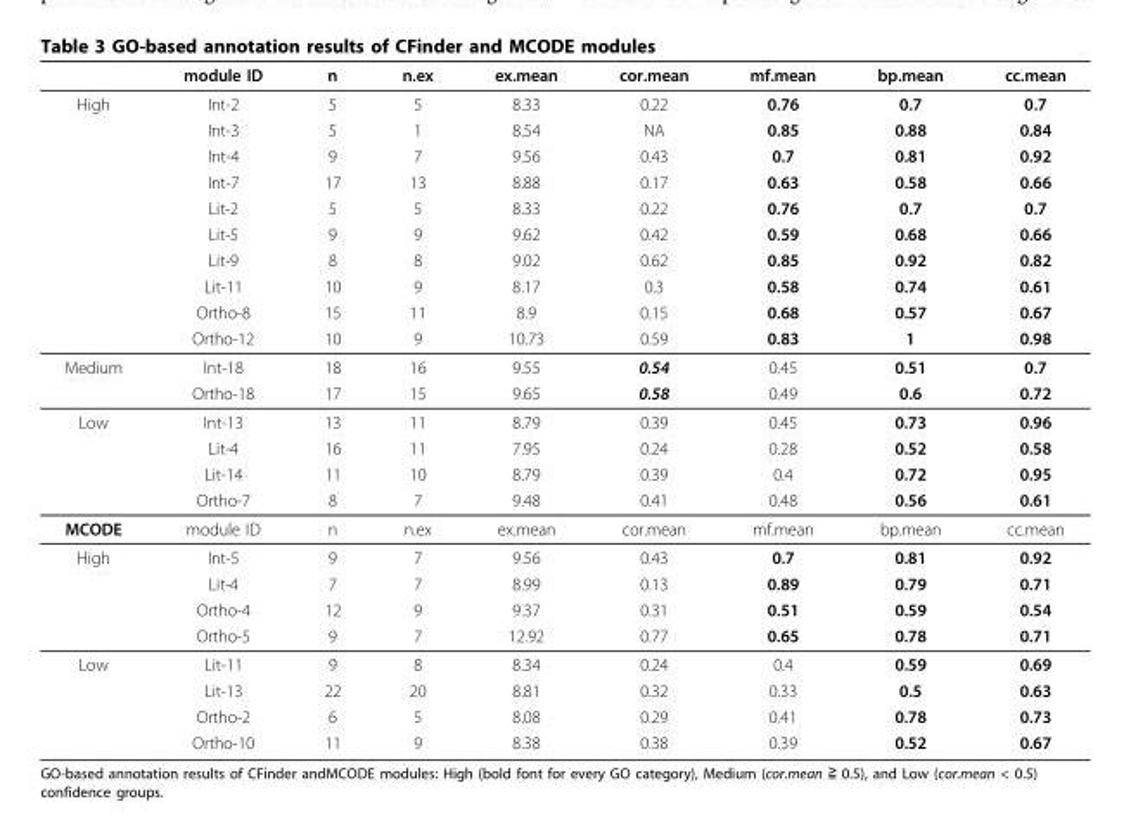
<table><thead><tr><td></td><td>module ID</td><td>n</td><td>n.ex</td><td>ex.mean</td><td>cor.mean</td><td>mf.mean</td><td>bp.mean</td><td>cc.mean</td></tr></thead><tbody><tr><td rowspan="10">High</td><td>Int-2</td><td>5</td><td>5</td><td>8.33</td><td>0.22</td><td>0.76</td><td>0.7</td><td>0.7</td></tr><tr><td>Int-3</td><td>5</td><td>1</td><td>8.54</td><td>NA</td><td>0.85</td><td>0.88</td><td>0.84</td></tr><tr><td>Int-4</td><td>9</td><td>7</td><td>9.56</td><td>0.43</td><td>0.7</td><td>0.81</td><td>0.92</td></tr><tr><td>Int-7</td><td>17</td><td>13</td><td>8.88</td><td>0.17</td><td>0.63</td><td>0.58</td><td>0.66</td></tr><tr><td>Lit-2</td><td>5</td><td>5</td><td>8.33</td><td>0.22</td><td>0.76</td><td>0.7</td><td>0.7</td></tr><tr><td>Lit-5</td><td>9</td><td>9</td><td>9.62</td><td>0.42</td><td>0.59</td><td>0.68</td><td>0.66</td></tr><tr><td>Lit-9</td><td>8</td><td>8</td><td>9.02</td><td>0.62</td><td>0.85</td><td>0.92</td><td>0.82</td></tr><tr><td>Lit-11</td><td>10</td><td>9</td><td>8.17</td><td>0.3</td><td>0.58</td><td>0.74</td><td>0.61</td></tr><tr><td>Ortho-8</td><td>15</td><td>11</td><td>8.9</td><td>0.15</td><td>0.68</td><td>0.57</td><td>0.67</td></tr><tr><td>Ortho-12</td><td>10</td><td>9</td><td>10.73</td><td>0.59</td><td>0.83</td><td>1</td><td>0.98</td></tr><tr><td rowspan="2">Medium</td><td>Int-18</td><td>18</td><td>16</td><td>9.55</td><td>0.54</td><td>0.45</td><td>0.51</td><td>0.7</td></tr><tr><td>Ortho-18</td><td>17</td><td>15</td><td>9.65</td><td>0.58</td><td>0.49</td><td>0.6</td><td>0.72</td></tr><tr><td rowspan="4">Low</td><td>Int-13</td><td>13</td><td>11</td><td>8.79</td><td>0.39</td><td>0.45</td><td>0.73</td><td>0.96</td></tr><tr><td>Lit-4</td><td>16</td><td>11</td><td>7.95</td><td>0.24</td><td>0.28</td><td>0.52</td><td>0.58</td></tr><tr><td>Lit-14</td><td>11</td><td>10</td><td>8.79</td><td>0.39</td><td>0.4</td><td>0.72</td><td>0.95</td></tr><tr><td>Ortho-7</td><td>8</td><td>7</td><td>9.48</td><td>0.41</td><td>0.48</td><td>0.56</td><td>0.61</td></tr><tr><td>MCODE</td><td>module ID</td><td>n</td><td>n.ex</td><td>ex.mean</td><td>cor.mean</td><td>mf.mean</td><td>bp.mean</td><td>cc.mean</td></tr><tr><td rowspan="4">High</td><td>Int-5</td><td>9</td><td>7</td><td>9.56</td><td>0.43</td><td>0.7</td><td>0.81</td><td>0.92</td></tr><tr><td>Lit-4</td><td>7</td><td>7</td><td>8.99</td><td>0.13</td><td>0.89</td><td>0.79</td><td>0.71</td></tr><tr><td>Ortho-4</td><td>12</td><td>9</td><td>9.37</td><td>0.31</td><td>0.51</td><td>0.59</td><td>0.54</td></tr><tr><td>Ortho-5</td><td>9</td><td>7</td><td>12.92</td><td>0.77</td><td>0.65</td><td>0.78</td><td>0.71</td></tr><tr><td rowspan="4">Low</td><td>Lit-11</td><td>9</td><td>8</td><td>8.34</td><td>0.24</td><td>0.4</td><td>0.59</td><td>0.69</td></tr><tr><td>Lit-13</td><td>22</td><td>20</td><td>8.81</td><td>0.32</td><td>0.33</td><td>0.5</td><td>0.63</td></tr><tr><td>Ortho-2</td><td>6</td><td>5</td><td>8.08</td><td>0.29</td><td>0.41</td><td>0.78</td><td>0.73</td></tr><tr><td>Ortho-10</td><td>11</td><td>9</td><td>8.38</td><td>0.38</td><td>0.39</td><td>0.52</td><td>0.67</td></tr></tbody></table>